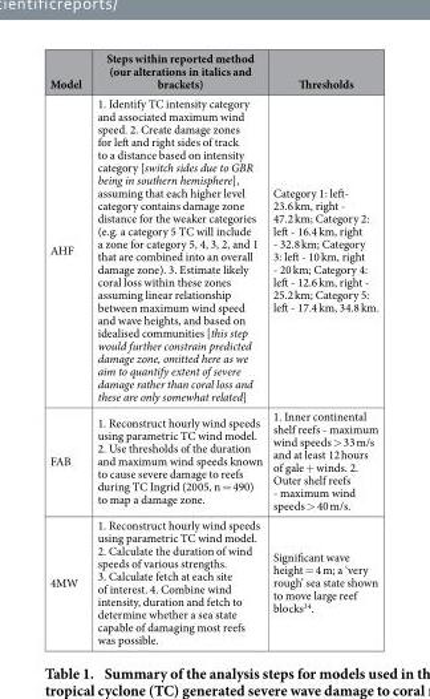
<table><thead><tr><td>Model</td><td>Steps within reported method (our alterations in italics and brackets)</td><td>Thresholds</td></tr></thead><tbody><tr><td>AHF</td><td>1. Identify TC intensity category and associated maximum wind speed. 2. Create damage zones for left and right sides of track to a distance based on intensity category [switch sides due to GBR being in southern hemisphere], assuming that each higher level category contains damage zone distance for the weaker categories (e.g. a category 5 TC will include a zone for category 5, 4, 3, 2, and 1 that are combined into an overall damage zone). 3. Estimate likely coral loss within these zones assuming linear relationship between maximum wind speed and wave heights, and based on idealised communities [this step would further constrain predicted damage zone, omitted here as we aim to quantify extent of severe damage rather than coral loss and these are only somewhat related]</td><td>Category 1: left- 23.6 km, right - 47.2 km; Category 2: left - 16.4 km, right - 32.8 km; Category 3: left - 10 km, right - 20 km; Category 4: left - 12.6 km, right - 25.2 km; Category 5: left - 17.4 km, 34.8 km.</td></tr><tr><td>FAB</td><td>1. Reconstruct hourly wind speeds using parametric TC wind model. 2. Use thresholds of the duration and maximum wind speeds known to cause severe damage to reefs during TC Ingrid (2005, n = 490) to map a damage zone.</td><td>1. Inner continental shelf reefs - maximum wind speeds &gt; 33 m/s and at least 12 hours of gale + winds. 2. Outer shelf reefs - maximum wind speeds &gt; 40 m/s.</td></tr><tr><td>4MW</td><td>1. Reconstruct hourly wind speeds using parametric TC wind model. 2. Calculate the duration of wind speeds of various strengths. 3. Calculate fetch at each site of interest. 4. Combine wind intensity, duration and fetch to determine whether a sea state capable of damaging most reefs was possible.</td><td>Significant wave height = 4 m; a ‘very rough’ sea state shown to move large reef blocks<sup>34</sup>.</td></tr></tbody></table>